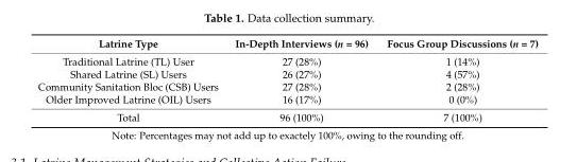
<table><thead><tr><td>Latrine Type</td><td>In-Depth Interviews (n = 96)</td><td>Focus Group Discussions (n = 7)</td></tr></thead><tbody><tr><td>Traditional Latrine (TL) User</td><td>27 (28%)</td><td>1 (14%)</td></tr><tr><td>Shared Latrine (SL) Users</td><td>26 (27%)</td><td>4 (57%)</td></tr><tr><td>Community Sanitation Bloc (CSB) Users</td><td>27 (28%)</td><td>2 (28%)</td></tr><tr><td>Older Improved Latrine (OIL) Users</td><td>16 (17%)</td><td>0 (0%)</td></tr><tr><td>Total</td><td>96 (100%)</td><td>7 (100%)</td></tr></tbody></table>